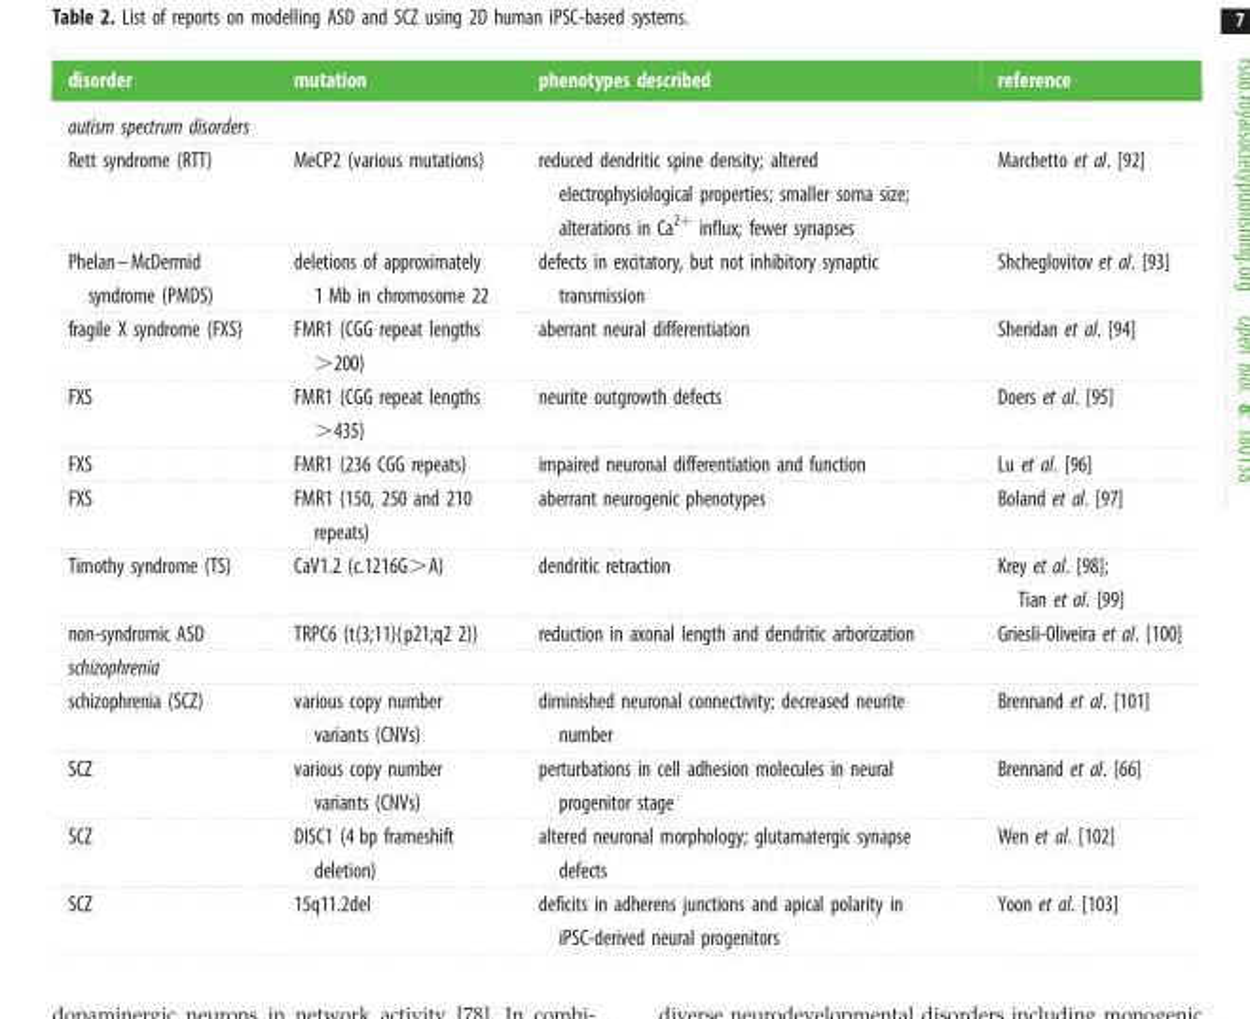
<table><thead><tr><td>disorder</td><td>mutation</td><td>phenotypes described</td><td>reference</td></tr></thead><tbody><tr><td colspan="4">autism spectrum disorders</td></tr><tr><td>Rett syndrome (RTT)</td><td>MeCP2 (various mutations)</td><td>reduced dendritic spine density; altered electrophysiological properties; smaller soma size; alterations in Ca<sup>2+</sup> influx; fewer synapses</td><td>Marchetto et al. [92]</td></tr><tr><td>Phelan–McDermid syndrome (PMDS)</td><td>deletions of approximately 1 Mb in chromosome 22</td><td>defects in excitatory, but not inhibitory synaptic transmission</td><td>Shcheglovitov et al. [93]</td></tr><tr><td>fragile X syndrome (FXS)</td><td>FMR1 (CGG repeat lengths &gt;200)</td><td>aberrant neural differentiation</td><td>Sheridan et al. [94]</td></tr><tr><td>FXS</td><td>FMR1 (CGG repeat lengths &gt;435)</td><td>neurite outgrowth defects</td><td>Doers et al. [95]</td></tr><tr><td>FXS</td><td>FMR1 (236 CGG repeats)</td><td>impaired neuronal differentiation and function</td><td>Lu et al. [96]</td></tr><tr><td>FXS</td><td>FMR1 (150, 250 and 210 repeats)</td><td>aberrant neurogenic phenotypes</td><td>Boland et al. [97]</td></tr><tr><td>Timothy syndrome (TS)</td><td>CaV1.2 (c.1216G&gt;A)</td><td>dendritic retraction</td><td>Krey et al. [98]; Tian et al. [99]</td></tr><tr><td>non-syndromic ASD</td><td>TRPC6 (t(3;11)(p21;q2 2))</td><td>reduction in axonal length and dendritic arborization</td><td>Griesli-Oliveira et al. [100]</td></tr><tr><td colspan="4">schizophrenia</td></tr><tr><td>schizophrenia (SCZ)</td><td>various copy number variants (CNVs)</td><td>diminished neuronal connectivity; decreased neurite number</td><td>Brennand et al. [101]</td></tr><tr><td>SCZ</td><td>various copy number variants (CNVs)</td><td>perturbations in cell adhesion molecules in neural progenitor stage</td><td>Brennand et al. [66]</td></tr><tr><td>SCZ</td><td>DISC1 (4 bp frameshift deletion)</td><td>altered neuronal morphology; glutamatergic synapse defects</td><td>Wen et al. [102]</td></tr><tr><td>SCZ</td><td>15q11.2del</td><td>deficits in adherens junctions and apical polarity in iPSC-derived neural progenitors</td><td>Yoon et al. [103]</td></tr></tbody></table>